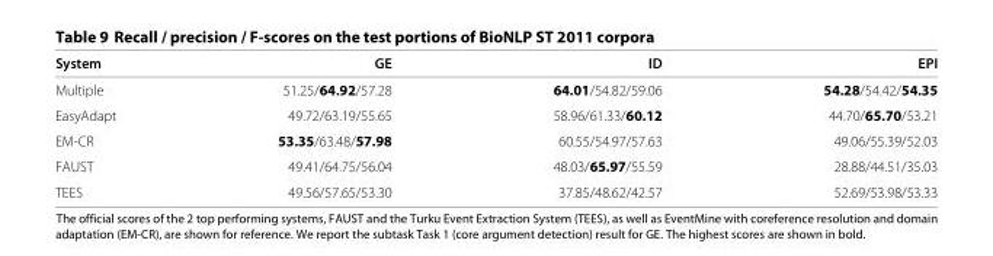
<table><thead><tr><td>System</td><td>GE</td><td>ID</td><td>EPI</td></tr></thead><tbody><tr><td>Multiple</td><td>51.25/64.92/57.28</td><td>64.01/54.82/59.06</td><td>54.28/54.42/54.35</td></tr><tr><td>EasyAdapt</td><td>49.72/63.19/55.65</td><td>58.96/61.33/60.12</td><td>44.70/65.70/53.21</td></tr><tr><td>EM-CR</td><td>53.35/63.48/57.98</td><td>60.55/54.97/57.63</td><td>49.06/55.39/52.03</td></tr><tr><td>FAUST</td><td>49.41/64.75/56.04</td><td>48.03/65.97/55.59</td><td>28.88/44.51/35.03</td></tr><tr><td>TEES</td><td>49.56/57.65/53.30</td><td>37.85/48.62/42.57</td><td>52.69/53.98/53.33</td></tr></tbody></table>